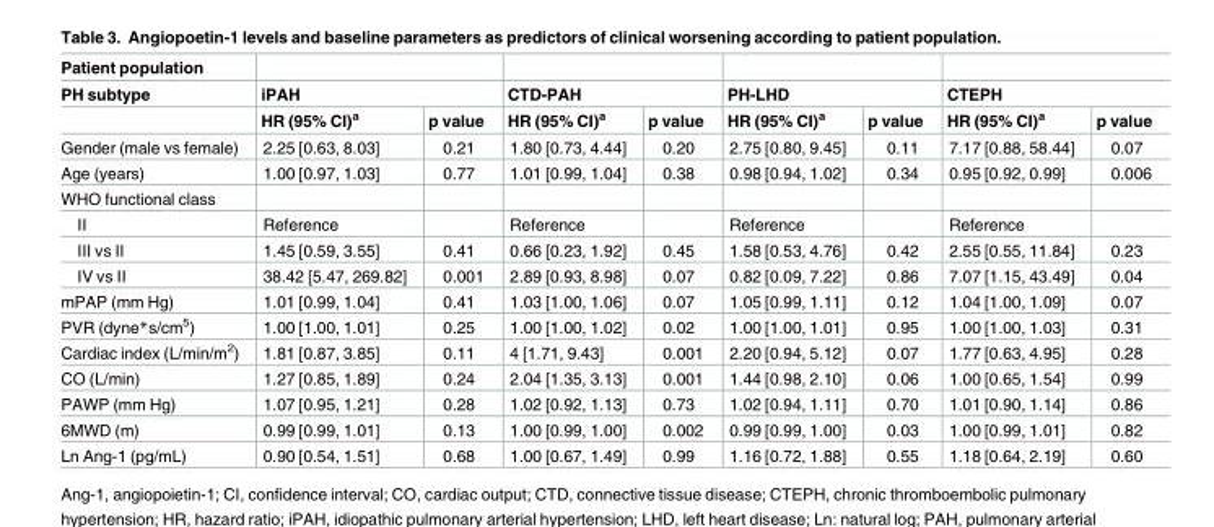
<table><thead><tr><td rowspan="3">Patient population PH subtype</td><td></td><td></td><td></td><td></td><td></td><td></td><td></td><td></td></tr><tr><td colspan="2">iPAH</td><td colspan="2">CTD-PAH</td><td colspan="2">PH-LHD</td><td colspan="2">CTEPH</td></tr><tr><td>HR (95% CI)<sup>a</sup></td><td>p value</td><td>HR (95% CI)<sup>a</sup></td><td>p value</td><td>HR (95% CI)<sup>a</sup></td><td>p value</td><td>HR (95% CI)<sup>a</sup></td><td>p value</td></tr></thead><tbody><tr><td>Gender (male vs female)</td><td>2.25 [0.63, 8.03]</td><td>0.21</td><td>1.80 [0.73, 4.44]</td><td>0.20</td><td>2.75 [0.80, 9.45]</td><td>0.11</td><td>7.17 [0.88, 58.44]</td><td>0.07</td></tr><tr><td>Age (years)</td><td>1.00 [0.97, 1.03]</td><td>0.77</td><td>1.01 [0.99, 1.04]</td><td>0.38</td><td>0.98 [0.94, 1.02]</td><td>0.34</td><td>0.95 [0.92, 0.99]</td><td>0.006</td></tr><tr><td colspan="9">WHO functional class</td></tr><tr><td>II</td><td>Reference</td><td></td><td>Reference</td><td></td><td>Reference</td><td></td><td>Reference</td><td></td></tr><tr><td>III vs II</td><td>1.45 [0.59, 3.55]</td><td>0.41</td><td>0.66 [0.23, 1.92]</td><td>0.45</td><td>1.58 [0.53, 4.76]</td><td>0.42</td><td>2.55 [0.55, 11.84]</td><td>0.23</td></tr><tr><td>IV vs II</td><td>38.42 [5.47, 269.82]</td><td>0.001</td><td>2.89 [0.93, 8.98]</td><td>0.07</td><td>0.82 [0.09, 7.22]</td><td>0.86</td><td>7.07 [1.15, 43.49]</td><td>0.04</td></tr><tr><td>mPAP (mm Hg)</td><td>1.01 [0.99, 1.04]</td><td>0.41</td><td>1.03 [1.00, 1.06]</td><td>0.07</td><td>1.05 [0.99, 1.11]</td><td>0.12</td><td>1.04 [1.00, 1.09]</td><td>0.07</td></tr><tr><td>PVR (dyne*s/cm<sup>5</sup>)</td><td>1.00 [1.00, 1.01]</td><td>0.25</td><td>1.00 [1.00, 1.02]</td><td>0.02</td><td>1.00 [1.00, 1.01]</td><td>0.95</td><td>1.00 [1.00, 1.03]</td><td>0.31</td></tr><tr><td>Cardiac index (L/min/m<sup>2</sup>)</td><td>1.81 [0.87, 3.85]</td><td>0.11</td><td>4 [1.71, 9.43]</td><td>0.001</td><td>2.20 [0.94, 5.12]</td><td>0.07</td><td>1.77 [0.63, 4.95]</td><td>0.28</td></tr><tr><td>CO (L/min)</td><td>1.27 [0.85, 1.89]</td><td>0.24</td><td>2.04 [1.35, 3.13]</td><td>0.001</td><td>1.44 [0.98, 2.10]</td><td>0.06</td><td>1.00 [0.65, 1.54]</td><td>0.99</td></tr><tr><td>PAWP (mm Hg)</td><td>1.07 [0.95, 1.21]</td><td>0.28</td><td>1.02 [0.92, 1.13]</td><td>0.73</td><td>1.02 [0.94, 1.11]</td><td>0.70</td><td>1.01 [0.90, 1.14]</td><td>0.86</td></tr><tr><td>6MWD (m)</td><td>0.99 [0.99, 1.01]</td><td>0.13</td><td>1.00 [0.99, 1.00]</td><td>0.002</td><td>0.99 [0.99, 1.00]</td><td>0.03</td><td>1.00 [0.99, 1.01]</td><td>0.82</td></tr><tr><td>Ln Ang-1 (pg/mL)</td><td>0.90 [0.54, 1.51]</td><td>0.68</td><td>1.00 [0.67, 1.49]</td><td>0.99</td><td>1.16 [0.72, 1.88]</td><td>0.55</td><td>1.18 [0.64, 2.19]</td><td>0.60</td></tr></tbody></table>